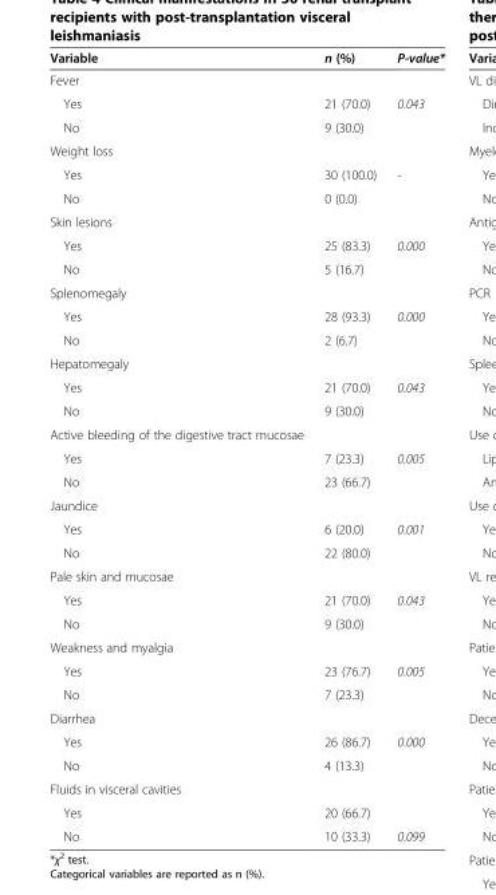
<table><thead><tr><td>Variable</td><td>n (%)</td><td>P-value*</td></tr></thead><tbody><tr><td colspan="3">Fever</td></tr><tr><td>Yes</td><td>21 (70.0)</td><td>0.043</td></tr><tr><td>No</td><td>9 (30.0)</td><td></td></tr><tr><td colspan="3">Weight loss</td></tr><tr><td>Yes</td><td>30 (100.0)</td><td>-</td></tr><tr><td>No</td><td>0 (0.0)</td><td></td></tr><tr><td colspan="3">Skin lesions</td></tr><tr><td>Yes</td><td>25 (83.3)</td><td>0.000</td></tr><tr><td>No</td><td>5 (16.7)</td><td></td></tr><tr><td colspan="3">Splenomegaly</td></tr><tr><td>Yes</td><td>28 (93.3)</td><td>0.000</td></tr><tr><td>No</td><td>2 (6.7)</td><td></td></tr><tr><td colspan="3">Hepatomegaly</td></tr><tr><td>Yes</td><td>21 (70.0)</td><td>0.043</td></tr><tr><td>No</td><td>9 (30.0)</td><td></td></tr><tr><td colspan="3">Active bleeding of the digestive tract mucosae</td></tr><tr><td>Yes</td><td>7 (23.3)</td><td>0.005</td></tr><tr><td>No</td><td>23 (66.7)</td><td></td></tr><tr><td colspan="3">Jaundice</td></tr><tr><td>Yes</td><td>6 (20.0)</td><td>0.001</td></tr><tr><td>No</td><td>22 (80.0)</td><td></td></tr><tr><td colspan="3">Pale skin and mucosae</td></tr><tr><td>Yes</td><td>21 (70.0)</td><td>0.043</td></tr><tr><td>No</td><td>9 (30.0)</td><td></td></tr><tr><td colspan="3">Weakness and myalgia</td></tr><tr><td>Yes</td><td>23 (76.7)</td><td>0.005</td></tr><tr><td>No</td><td>7 (23.3)</td><td></td></tr><tr><td colspan="3">Diarrhea</td></tr><tr><td>Yes</td><td>26 (86.7)</td><td>0.000</td></tr><tr><td>No</td><td>4 (13.3)</td><td></td></tr><tr><td colspan="3">Fluids in visceral cavities</td></tr><tr><td>Yes</td><td>20 (66.7)</td><td></td></tr><tr><td>No</td><td>10 (33.3)</td><td>0.099</td></tr></tbody></table>